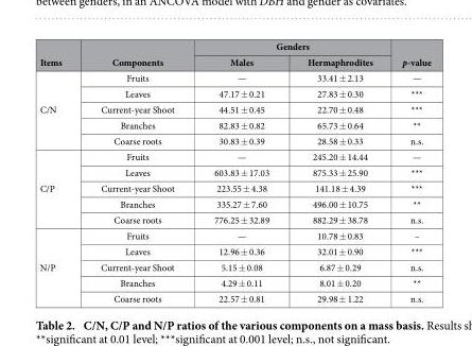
<table><thead><tr><td rowspan="2">Items</td><td rowspan="2">Components</td><td colspan="2">Genders</td><td rowspan="2">p-value</td></tr><tr><td>Males</td><td>Hermaphrodites</td></tr></thead><tbody><tr><td rowspan="5">C/N</td><td>Fruits</td><td>—</td><td>33.41 ± 2.13</td><td>—</td></tr><tr><td>Leaves</td><td>47.17 ± 0.21</td><td>27.83 ± 0.30</td><td>***</td></tr><tr><td>Current-year Shoot</td><td>44.51 ± 0.45</td><td>22.70 ± 0.48</td><td>***</td></tr><tr><td>Branches</td><td>82.83 ± 0.82</td><td>65.73 ± 0.64</td><td>**</td></tr><tr><td>Coarse roots</td><td>30.83 ± 0.39</td><td>28.58 ± 0.33</td><td>n.s.</td></tr><tr><td rowspan="5">C/P</td><td>Fruits</td><td>—</td><td>245.20 ± 14.44</td><td>—</td></tr><tr><td>Leaves</td><td>603.83 ± 17.03</td><td>875.33 ± 25.90</td><td>***</td></tr><tr><td>Current-year Shoot</td><td>223.55 ± 4.38</td><td>141.18 ± 4.39</td><td>***</td></tr><tr><td>Branches</td><td>335.27 ± 7.60</td><td>496.00 ± 10.75</td><td>**</td></tr><tr><td>Coarse roots</td><td>776.25 ± 32.89</td><td>882.29 ± 38.78</td><td>n.s.</td></tr><tr><td rowspan="5">N/P</td><td>Fruits</td><td>—</td><td>10.78 ± 0.83</td><td>–</td></tr><tr><td>Leaves</td><td>12.96 ± 0.36</td><td>32.01 ± 0.90</td><td>***</td></tr><tr><td>Current-year Shoot</td><td>5.15 ± 0.08</td><td>6.87 ± 0.29</td><td>n.s.</td></tr><tr><td>Branches</td><td>4.29 ± 0.11</td><td>8.01 ± 0.20</td><td>**</td></tr><tr><td>Coarse roots</td><td>22.57 ± 0.81</td><td>29.98 ± 1.22</td><td>n.s.</td></tr></tbody></table>